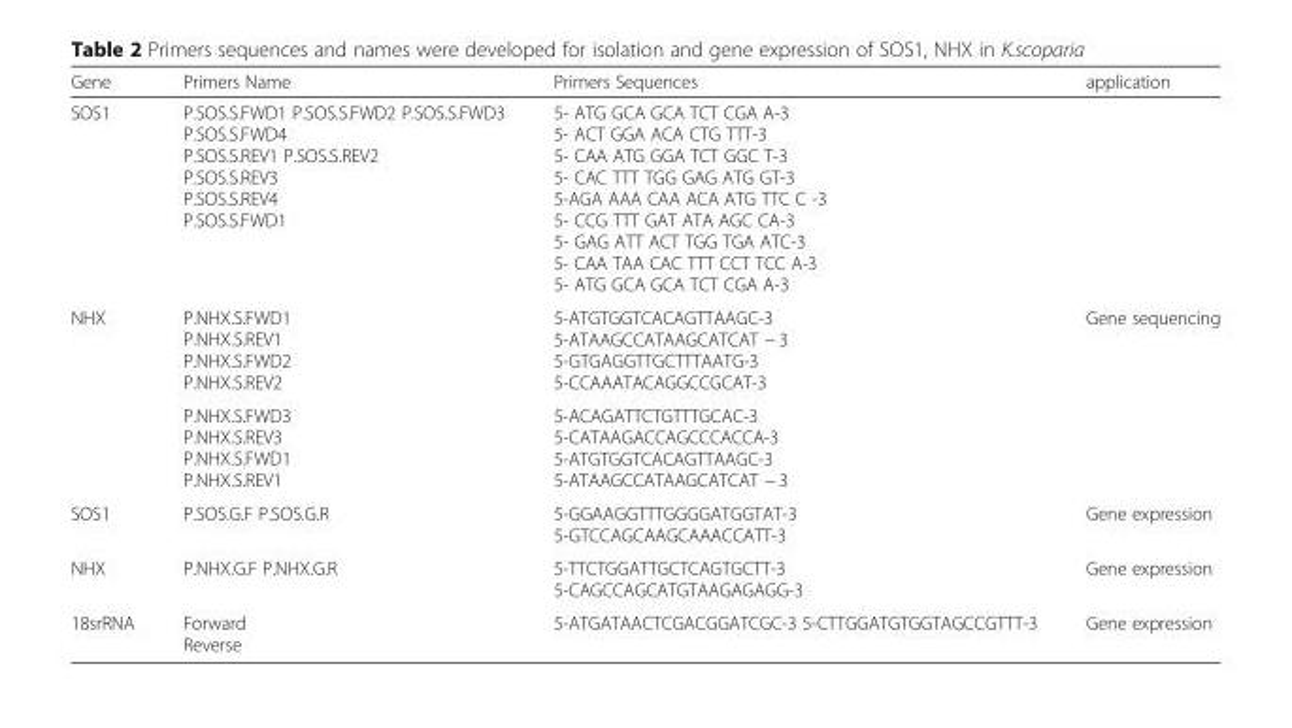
<table><thead><tr><td>Gene</td><td>Primers Name</td><td>Primers Sequences</td><td>application</td></tr></thead><tbody><tr><td>SOS1</td><td>P.SOS.S.FWD1 P.SOS.S.FWD2 P.SOS.S.FWD3 P.SOS.S.FWD4 P.SOS.S.REV1 P.SOS.S.REV2 P.SOS.S.REV3 P.SOS.S.REV4 P.SOS.S.FWD1</td><td>5- ATG GCA GCA TCT CGA A-3 5- ACT GGA ACA CTG TTT-3 5- CAA ATG GGA TCT GGC T-3 5- CAC TTT TGG GAG ATG GT-3 5-AGA AAA CAA ACA ATG TTC C -3 5- CCG TTT GAT ATA AGC CA-3 5- GAG ATT ACT TGG TGA ATC-3 5- CAA TAA CAC TTT CCT TCC A-3 5- ATG GCA GCA TCT CGA A-3</td><td></td></tr><tr><td rowspan="2">NHX</td><td>P.NHX.S.FWD1 P.NHX.S.REV1 P.NHX.S.FWD2 P.NHX.S.REV2</td><td>5-ATGTGGTCACAGTTAAGC-3 5-ATAAGCCATAAGCATCAT − 3 5-GTGAGGTTGCTTTAATG-3 5-CCAAATACAGGCCGCAT-3</td><td>Gene sequencing</td></tr><tr><td>P.NHX.S.FWD3 P.NHX.S.REV3 P.NHX.S.FWD1 P.NHX.S.REV1</td><td>5-ACAGATTCTGTTTGCAC-3 5-CATAAGACCAGCCCACCA-3 5-ATGTGGTCACAGTTAAGC-3 5-ATAAGCCATAAGCATCAT − 3</td><td></td></tr><tr><td>SOS1</td><td>P.SOS.G.F P.SOS.G.R</td><td>5-GGAAGGTTTGGGGATGGTAT-3 5-GTCCAGCAAGCAAACCATT-3</td><td>Gene expression</td></tr><tr><td>NHX</td><td>P.NHX.G.F P.NHX.G.R</td><td>5-TTCTGGATTGCTCAGTGCTT-3 5-CAGCCAGCATGTAAGAGAGG-3</td><td>Gene expression</td></tr><tr><td>18srRNA</td><td>Forward Reverse</td><td>5-ATGATAACTCGACGGATCGC-3 5-CTTGGATGTGGTAGCCGTTT-3</td><td>Gene expression</td></tr></tbody></table>